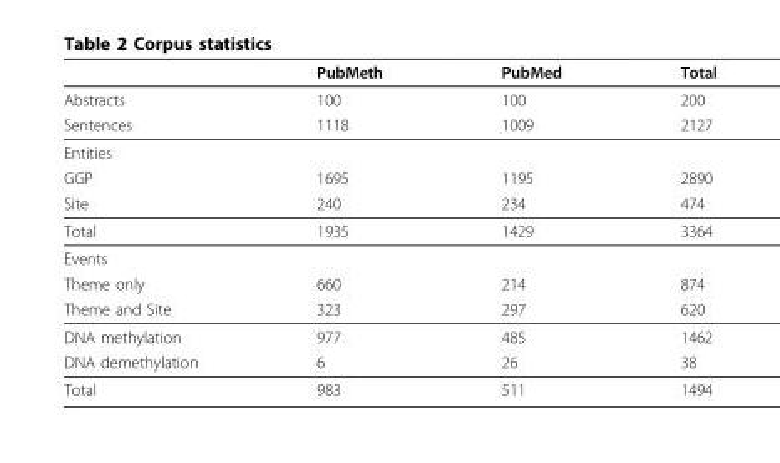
<table><thead><tr><td></td><td>PubMeth</td><td>PubMed</td><td>Total</td></tr></thead><tbody><tr><td>Abstracts</td><td>100</td><td>100</td><td>200</td></tr><tr><td>Sentences</td><td>1118</td><td>1009</td><td>2127</td></tr><tr><td colspan="4">Entities</td></tr><tr><td>GGP</td><td>1695</td><td>1195</td><td>2890</td></tr><tr><td>Site</td><td>240</td><td>234</td><td>474</td></tr><tr><td>Total</td><td>1935</td><td>1429</td><td>3364</td></tr><tr><td colspan="4">Events</td></tr><tr><td>Theme only</td><td>660</td><td>214</td><td>874</td></tr><tr><td>Theme and Site</td><td>323</td><td>297</td><td>620</td></tr><tr><td>DNA methylation</td><td>977</td><td>485</td><td>1462</td></tr><tr><td>DNA demethylation</td><td>6</td><td>26</td><td>38</td></tr><tr><td>Total</td><td>983</td><td>511</td><td>1494</td></tr></tbody></table>